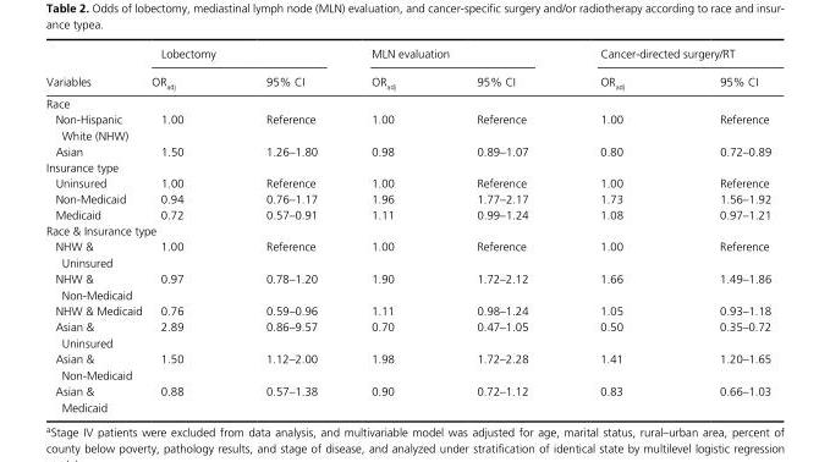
<table><thead><tr><td rowspan="2">Variables</td><td colspan="2">Lobectomy</td><td colspan="2">MLN evaluation</td><td colspan="2">Cancer- directed surgery/RT</td></tr><tr><td>OR<sub>adj</sub></td><td>95% CI</td><td>OR<sub>adj</sub></td><td>95% CI</td><td>OR<sub>adj</sub></td><td>95% CI</td></tr></thead><tbody><tr><td colspan="7">Race</td></tr><tr><td>Non- Hispanic White (NHW)</td><td>1.00</td><td>Reference</td><td>1.00</td><td>Reference</td><td>1.00</td><td>Reference</td></tr><tr><td>Asian</td><td>1.50</td><td>1.26–1.80</td><td>0.98</td><td>0.89–1.07</td><td>0.80</td><td>0.72–0.89</td></tr><tr><td colspan="7">Insurance type</td></tr><tr><td>Uninsured</td><td>1.00</td><td>Reference</td><td>1.00</td><td>Reference</td><td>1.00</td><td>Reference</td></tr><tr><td>Non- Medicaid</td><td>0.94</td><td>0.76–1.17</td><td>1.96</td><td>1.77–2.17</td><td>1.73</td><td>1.56–1.92</td></tr><tr><td>Medicaid</td><td>0.72</td><td>0.57–0.91</td><td>1.11</td><td>0.99–1.24</td><td>1.08</td><td>0.97–1.21</td></tr><tr><td colspan="7">Race &amp; Insurance type</td></tr><tr><td>NHW &amp; Uninsured</td><td>1.00</td><td>Reference</td><td>1.00</td><td>Reference</td><td>1.00</td><td>Reference</td></tr><tr><td>NHW &amp; Non- Medicaid</td><td>0.97</td><td>0.78–1.20</td><td>1.90</td><td>1.72–2.12</td><td>1.66</td><td>1.49–1.86</td></tr><tr><td>NHW &amp; Medicaid</td><td>0.76</td><td>0.59–0.96</td><td>1.11</td><td>0.98–1.24</td><td>1.05</td><td>0.93–1.18</td></tr><tr><td>Asian &amp; Uninsured</td><td>2.89</td><td>0.86–9.57</td><td>0.70</td><td>0.47–1.05</td><td>0.50</td><td>0.35–0.72</td></tr><tr><td>Asian &amp; Non- Medicaid</td><td>1.50</td><td>1.12–2.00</td><td>1.98</td><td>1.72–2.28</td><td>1.41</td><td>1.20–1.65</td></tr><tr><td>Asian &amp; Medicaid</td><td>0.88</td><td>0.57–1.38</td><td>0.90</td><td>0.72–1.12</td><td>0.83</td><td>0.66–1.03</td></tr></tbody></table>